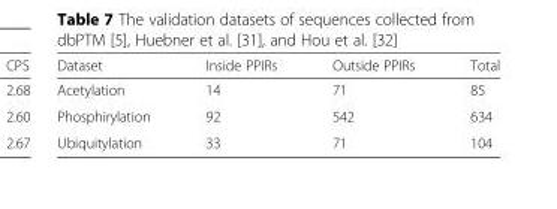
<table><thead><tr><td>Dataset</td><td>Inside PPIRs</td><td>Outside PPIRs</td><td>Total</td></tr></thead><tbody><tr><td>Acetylation</td><td>14</td><td>71</td><td>85</td></tr><tr><td>Phosphirylation</td><td>92</td><td>542</td><td>634</td></tr><tr><td>Ubiquitylation</td><td>33</td><td>71</td><td>104</td></tr></tbody></table>